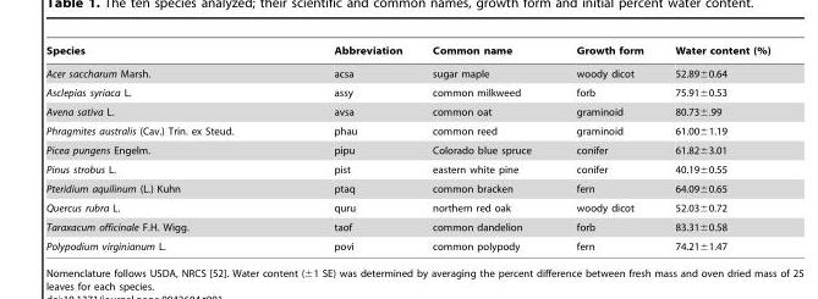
<table><thead><tr><td>Species</td><td>Abbreviation</td><td>Common name</td><td>Growth form</td><td>Water content (%)</td></tr></thead><tbody><tr><td>Acer saccharum Marsh.</td><td>acsa</td><td>sugar maple</td><td>woody dicot</td><td>52.89±0.64</td></tr><tr><td>Asclepias syriaca L.</td><td>assy</td><td>common milkweed</td><td>forb</td><td>75.91±0.53</td></tr><tr><td>Avena sativa L.</td><td>avsa</td><td>common oat</td><td>graminoid</td><td>80.73±.99</td></tr><tr><td>Phragmites australis (Cav.) Trin. ex Steud.</td><td>phau</td><td>common reed</td><td>graminoid</td><td>61.00±1.19</td></tr><tr><td>Picea pungens Engelm.</td><td>pipu</td><td>Colorado blue spruce</td><td>conifer</td><td>61.82±3.01</td></tr><tr><td>Pinus strobus L.</td><td>pist</td><td>eastern white pine</td><td>conifer</td><td>40.19±0.55</td></tr><tr><td>Pteridium aquilinum (L.) Kuhn</td><td>ptaq</td><td>common bracken</td><td>fern</td><td>64.09±0.65</td></tr><tr><td>Quercus rubra L.</td><td>quru</td><td>northern red oak</td><td>woody dicot</td><td>52.03±0.72</td></tr><tr><td>Taraxacum officinale F.H. Wigg.</td><td>taof</td><td>common dandelion</td><td>forb</td><td>83.31±0.58</td></tr><tr><td>Polypodium virginianum L.</td><td>povi</td><td>common polypody</td><td>fern</td><td>74.21±1.47</td></tr></tbody></table>